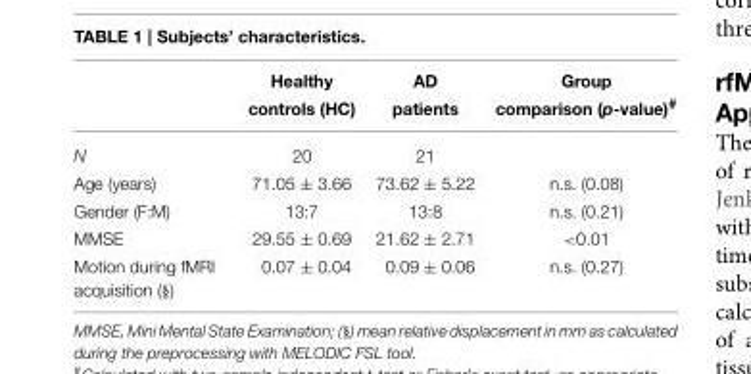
<table><thead><tr><td></td><td>Healthy controls (HC)</td><td>AD patients</td><td>Group comparison (p-value)<sup>#</sup></td></tr></thead><tbody><tr><td>N</td><td>20</td><td>21</td><td></td></tr><tr><td>Age (years)</td><td>71.05 ± 3.66</td><td>73.62 ± 5.22</td><td>n.s. (0.08)</td></tr><tr><td>Gender (F:M)</td><td>13:7</td><td>13:8</td><td>n.s. (0.21)</td></tr><tr><td>MMSE</td><td>29.55 ± 0.69</td><td>21.62 ± 2.71</td><td>&lt;0.01</td></tr><tr><td>Motion during fMRI acquisition (§)</td><td>0.07 ± 0.04</td><td>0.09 ± 0.06</td><td>n.s. (0.27)</td></tr></tbody></table>